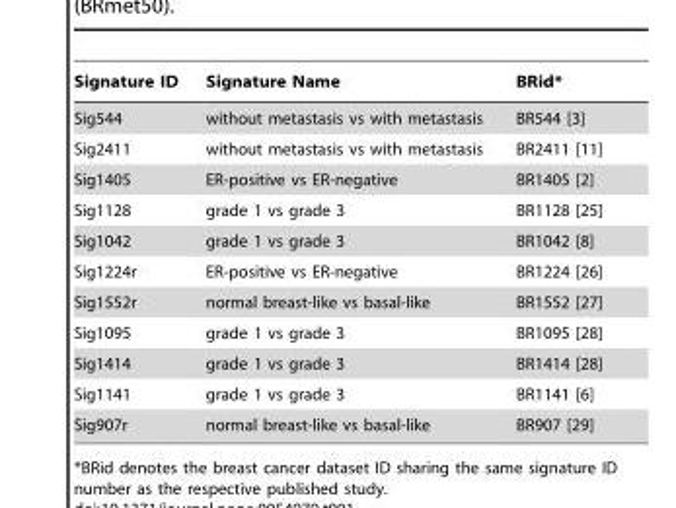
<table><thead><tr><td>Signature ID</td><td>Signature Name</td><td>BRid*</td></tr></thead><tbody><tr><td>Sig544</td><td>without metastasis vs with metastasis</td><td>BR544 [3]</td></tr><tr><td>Sig2411</td><td>without metastasis vs with metastasis</td><td>BR2411 [11]</td></tr><tr><td>Sig1405</td><td>ER-positive vs ER-negative</td><td>BR1405 [2]</td></tr><tr><td>Sig1128</td><td>grade 1 vs grade 3</td><td>BR1128 [25]</td></tr><tr><td>Sig1042</td><td>grade 1 vs grade 3</td><td>BR1042 [8]</td></tr><tr><td>Sig1224r</td><td>ER-positive vs ER-negative</td><td>BR1224 [26]</td></tr><tr><td>Sig1552r</td><td>normal breast-like vs basal-like</td><td>BR1552 [27]</td></tr><tr><td>Sig1095</td><td>grade 1 vs grade 3</td><td>BR1095 [28]</td></tr><tr><td>Sig1414</td><td>grade 1 vs grade 3</td><td>BR1414 [28]</td></tr><tr><td>Sig1141</td><td>grade 1 vs grade 3</td><td>BR1141 [6]</td></tr><tr><td>Sig907r</td><td>normal breast-like vs basal-like</td><td>BR907 [29]</td></tr></tbody></table>